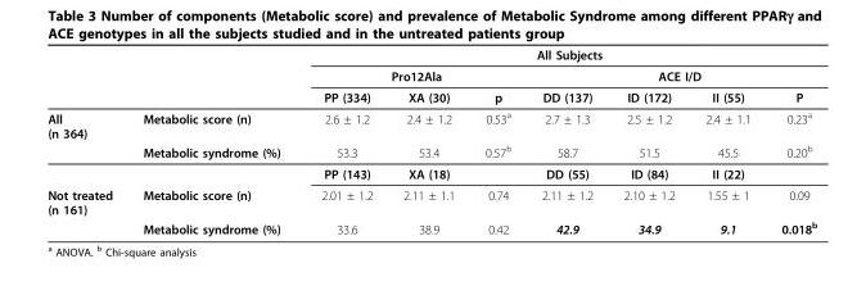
<table><thead><tr><td rowspan="3"></td><td rowspan="3"></td><td colspan="7">All Subjects</td></tr><tr><td colspan="3">Pro12Ala</td><td colspan="4">ACE I/D</td></tr><tr><td>PP (334)</td><td>XA (30)</td><td>p</td><td>DD (137)</td><td>ID (172)</td><td>II (55)</td><td>P</td></tr></thead><tbody><tr><td rowspan="3">All (n 364)</td><td>Metabolic score (n)</td><td>2.6 ± 1.2</td><td>2.4 ± 1.2</td><td>0.53<sup>a</sup></td><td>2.7 ± 1.3</td><td>2.5 ± 1.2</td><td>2.4 ± 1.1</td><td>0.23<sup>a</sup></td></tr><tr><td>Metabolic syndrome (%)</td><td>53.3</td><td>53.4</td><td>0.57<sup>b</sup></td><td>58.7</td><td>51.5</td><td>45.5</td><td>0.20<sup>b</sup></td></tr><tr><td></td><td>PP (143)</td><td>XA (18)</td><td></td><td>DD (55)</td><td>ID (84)</td><td>II (22)</td><td></td></tr><tr><td rowspan="2">Not treated (n 161)</td><td>Metabolic score (n)</td><td>2.01 ± 1.2</td><td>2.11 ± 1.1</td><td>0.74</td><td>2.11 ± 1.2</td><td>2.10 ± 1.2</td><td>1.55 ± 1</td><td>0.09</td></tr><tr><td>Metabolic syndrome (%)</td><td>33.6</td><td>38.9</td><td>0.42</td><td>42.9</td><td>34.9</td><td>9.1</td><td>0.018<sup>b</sup></td></tr></tbody></table>